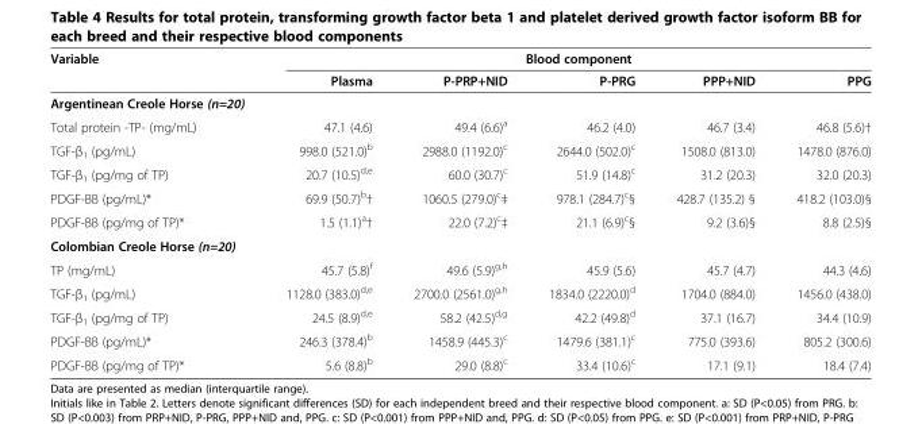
<table><thead><tr><td rowspan="2">Variable</td><td colspan="5">Blood component</td></tr><tr><td>Plasma</td><td>P-PRP+NID</td><td>P-PRG</td><td>PPP+NID</td><td>PPG</td></tr></thead><tbody><tr><td colspan="6">Argentinean Creole Horse (n=20)</td></tr><tr><td>Total protein -TP- (mg/mL)</td><td>47.1 (4.6)</td><td>49.4 (6.6)<sup>a</sup></td><td>46.2 (4.0)</td><td>46.7 (3.4)</td><td>46.8 (5.6)†</td></tr><tr><td>TGF-β<sub>1</sub> (pg/mL)</td><td>998.0 (521.0)<sup>b</sup></td><td>2988.0 (1192.0)<sup>c</sup></td><td>2644.0 (502.0)<sup>c</sup></td><td>1508.0 (813.0)</td><td>1478.0 (876.0)</td></tr><tr><td>TGF-β<sub>1</sub> (pg/mg of TP)</td><td>20.7 (10.5)<sup>d,e</sup></td><td>60.0 (30.7)<sup>c</sup></td><td>51.9 (14.8)<sup>c</sup></td><td>31.2 (20.3)</td><td>32.0 (20.3)</td></tr><tr><td>PDGF-BB (pg/mL)*</td><td>69.9 (50.7)<sup>b</sup>†</td><td>1060.5 (279.0)<sup>c</sup>‡</td><td>978.1 (284.7)<sup>c</sup>§</td><td>428.7 (135.2) §</td><td>418.2 (103.0)§</td></tr><tr><td>PDGF-BB (pg/mg of TP)*</td><td>1.5 (1.1)<sup>a</sup>†</td><td>22.0 (7.2)<sup>c</sup>‡</td><td>21.1 (6.9)<sup>c</sup>§</td><td>9.2 (3.6)§</td><td>8.8 (2.5)§</td></tr><tr><td colspan="6">Colombian Creole Horse (n=20)</td></tr><tr><td>TP (mg/mL)</td><td>45.7 (5.8)<sup>f</sup></td><td>49.6 (5.9)<sup>g,h</sup></td><td>45.9 (5.6)</td><td>45.7 (4.7)</td><td>44.3 (4.6)</td></tr><tr><td>TGF-β<sub>1</sub> (pg/mL)</td><td>1128.0 (383.0)<sup>d,e</sup></td><td>2700.0 (2561.0)<sup>g,h</sup></td><td>1834.0 (2220.0)<sup>d</sup></td><td>1704.0 (884.0)</td><td>1456.0 (438.0)</td></tr><tr><td>TGF-β<sub>1</sub> (pg/mg of TP)</td><td>24.5 (8.9)<sup>d,e</sup></td><td>58.2 (42.5)<sup>d,g</sup></td><td>42.2 (49.8)<sup>d</sup></td><td>37.1 (16.7)</td><td>34.4 (10.9)</td></tr><tr><td>PDGF-BB (pg/mL)*</td><td>246.3 (378.4)<sup>b</sup></td><td>1458.9 (445.3)<sup>c</sup></td><td>1479.6 (381.1)<sup>c</sup></td><td>775.0 (393.6)</td><td>805.2 (300.6)</td></tr><tr><td>PDGF-BB (pg/mg of TP)*</td><td>5.6 (8.8)<sup>b</sup></td><td>29.0 (8.8)<sup>c</sup></td><td>33.4 (10.6)<sup>c</sup></td><td>17.1 (9.1)</td><td>18.4 (7.4)</td></tr></tbody></table>